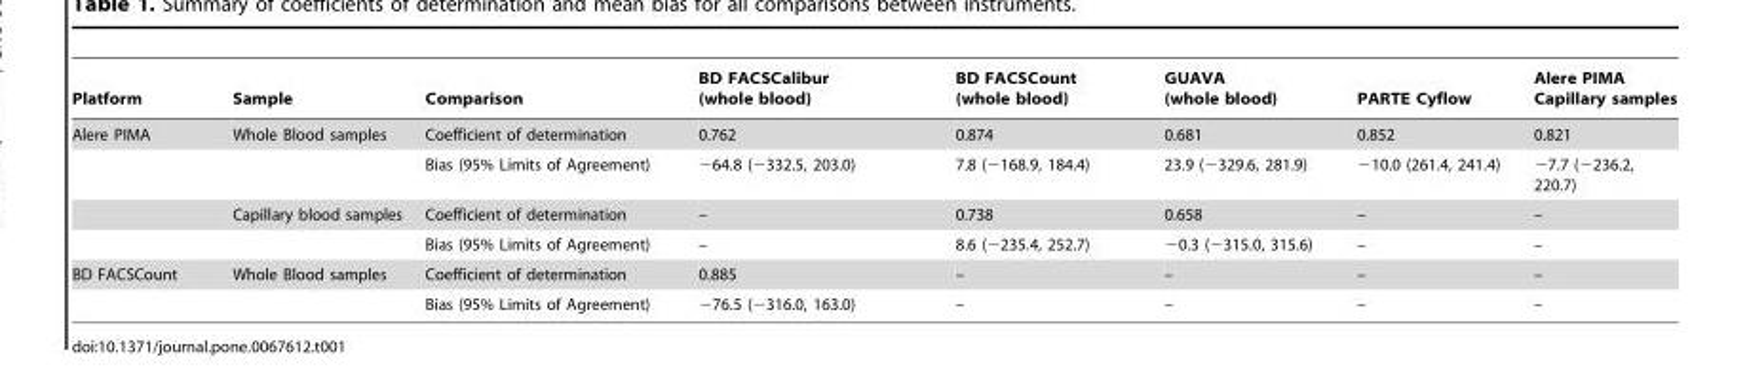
<table><thead><tr><td>Platform</td><td>Sample</td><td>Comparison</td><td>BD FACSCalibur (whole blood)</td><td>BD FACSCount (whole blood)</td><td>GUAVA (whole blood)</td><td>PARTE Cyflow</td><td>Alere PIMA Capillary samples</td></tr></thead><tbody><tr><td rowspan="4">Alere PIMA</td><td>Whole Blood samples</td><td>Coefficient of determination</td><td>0.762</td><td>0.874</td><td>0.681</td><td>0.852</td><td>0.821</td></tr><tr><td></td><td>Bias (95% Limits of Agreement)</td><td>−64.8 (−332.5, 203.0)</td><td>7.8 (−168.9, 184.4)</td><td>23.9 (−329.6, 281.9)</td><td>−10.0 (261.4, 241.4)</td><td>−7.7 (−236.2, 220.7)</td></tr><tr><td>Capillary blood samples</td><td>Coefficient of determination</td><td>–</td><td>0.738</td><td>0.658</td><td>–</td><td>–</td></tr><tr><td></td><td>Bias (95% Limits of Agreement)</td><td>–</td><td>8.6 (−235.4, 252.7)</td><td>−0.3 (−315.0, 315.6)</td><td>–</td><td>–</td></tr><tr><td rowspan="2">BD FACSCount</td><td>Whole Blood samples</td><td>Coefficient of determination</td><td>0.885</td><td>–</td><td>–</td><td>–</td><td>–</td></tr><tr><td></td><td>Bias (95% Limits of Agreement)</td><td>−76.5 (−316.0, 163.0)</td><td>–</td><td>–</td><td>–</td><td>–</td></tr></tbody></table>